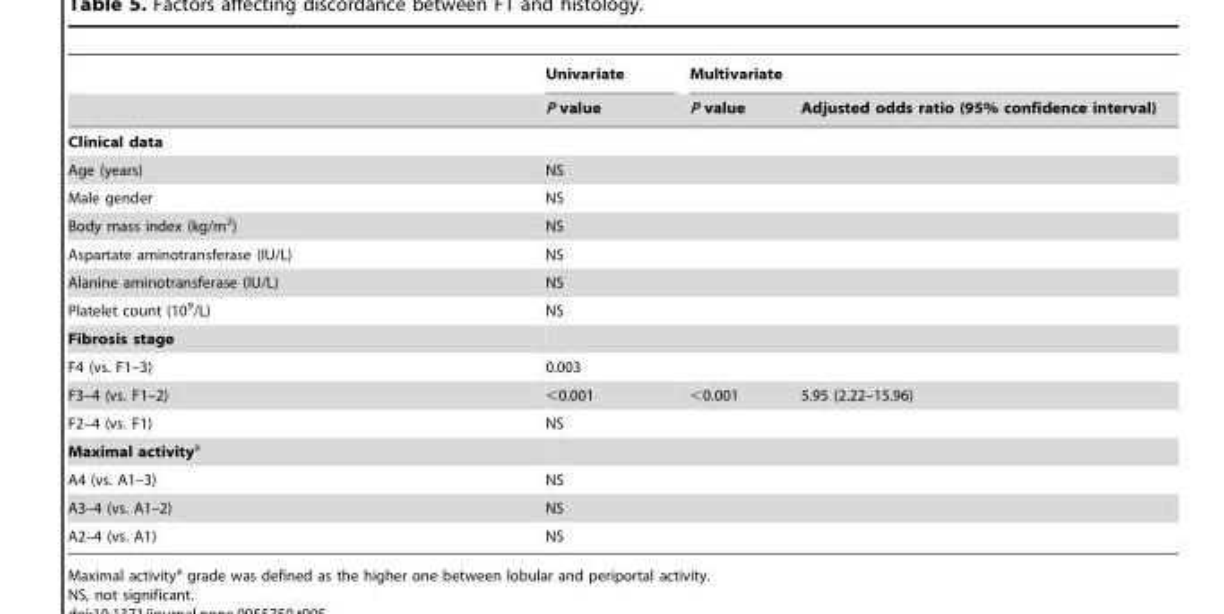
<table><thead><tr><td rowspan="2"></td><td rowspan="2">Univariate P value</td><td colspan="2">Multivariate</td></tr><tr><td>P value</td><td>Adjusted odds ratio (95% confidence interval)</td></tr></thead><tbody><tr><td colspan="4">Clinical data</td></tr><tr><td>Age (years)</td><td>NS</td><td></td><td></td></tr><tr><td>Male gender</td><td>NS</td><td></td><td></td></tr><tr><td>Body mass index (kg/m<sup>2</sup>)</td><td>NS</td><td></td><td></td></tr><tr><td>Aspartate aminotransferase (IU/L)</td><td>NS</td><td></td><td></td></tr><tr><td>Alanine aminotransferase (IU/L)</td><td>NS</td><td></td><td></td></tr><tr><td>Platelet count (10<sup>9</sup>/L)</td><td>NS</td><td></td><td></td></tr><tr><td colspan="4">Fibrosis stage</td></tr><tr><td>F4 (vs. F1–3)</td><td>0.003</td><td></td><td></td></tr><tr><td>F3–4 (vs. F1–2)</td><td>&lt;0.001</td><td>&lt;0.001</td><td>5.95 (2.22–15.96)</td></tr><tr><td>F2–4 (vs. F1)</td><td>NS</td><td></td><td></td></tr><tr><td colspan="4">Maximal activity<sup>a</sup></td></tr><tr><td>A4 (vs. A1–3)</td><td>NS</td><td></td><td></td></tr><tr><td>A3–4 (vs. A1–2)</td><td>NS</td><td></td><td></td></tr><tr><td>A2–4 (vs. A1)</td><td>NS</td><td></td><td></td></tr></tbody></table>